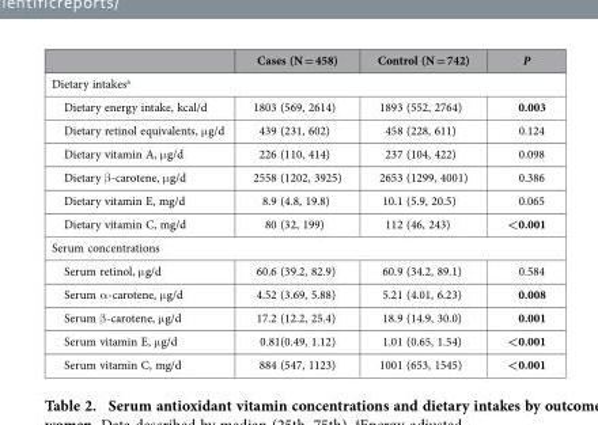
<table><thead><tr><td></td><td>Cases (N = 458)</td><td>Control (N = 742)</td><td>P</td></tr></thead><tbody><tr><td colspan="4">Dietary intakes<sup>a</sup></td></tr><tr><td>Dietary energy intake, kcal/d</td><td>1803 (569, 2614)</td><td>1893 (552, 2764)</td><td>0.003</td></tr><tr><td>Dietary retinol equivalents, μ g/d</td><td>439 (231, 602)</td><td>458 (228, 611)</td><td>0.124</td></tr><tr><td>Dietary vitamin A, μ g/d</td><td>226 (110, 414)</td><td>237 (104, 422)</td><td>0.098</td></tr><tr><td>Dietary β -carotene, μ g/d</td><td>2558 (1202, 3925)</td><td>2653 (1299, 4001)</td><td>0.386</td></tr><tr><td>Dietary vitamin E, mg/d</td><td>8.9 (4.8, 19.8)</td><td>10.1 (5.9, 20.5)</td><td>0.065</td></tr><tr><td>Dietary vitamin C, mg/d</td><td>80 (32, 199)</td><td>112 (46, 243)</td><td>&lt;0.001</td></tr><tr><td colspan="4">Serum concentrations</td></tr><tr><td>Serum retinol, μ g/d</td><td>60.6 (39.2, 82.9)</td><td>60.9 (34.2, 89.1)</td><td>0.584</td></tr><tr><td>Serum α -carotene, μ g/d</td><td>4.52 (3.69, 5.88)</td><td>5.21 (4.01, 6.23)</td><td>0.008</td></tr><tr><td>Serum β -carotene, μ g/d</td><td>17.2 (12.2, 25.4)</td><td>18.9 (14.9, 30.0)</td><td>0.001</td></tr><tr><td>Serum vitamin E, μ g/d</td><td>0.81(0.49, 1.12)</td><td>1.01 (0.65, 1.54)</td><td>&lt;0.001</td></tr><tr><td>Serum vitamin C, mg/d</td><td>884 (547, 1123)</td><td>1001 (653, 1545)</td><td>&lt;0.001</td></tr></tbody></table>